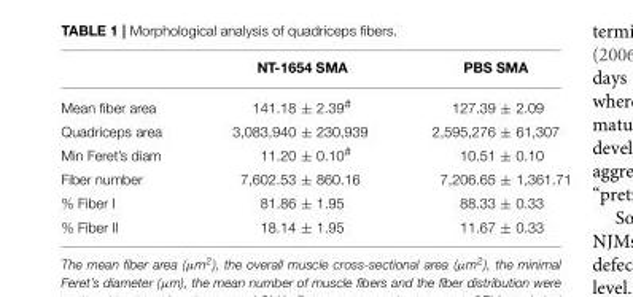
<table><thead><tr><td></td><td>NT-1654 SMA</td><td>PBS SMA</td></tr></thead><tbody><tr><td>Mean fiber area</td><td>141.18 ± 2.39<sup>#</sup></td><td>127.39 ± 2.09</td></tr><tr><td>Quadriceps area</td><td>3,083,940 ± 230,939</td><td>2,595,276 ± 61,307</td></tr><tr><td>Min Feret’s diam</td><td>11.20 ± 0.10<sup>#</sup></td><td>10.51 ± 0.10</td></tr><tr><td>Fiber number</td><td>7,602.53 ± 860.16</td><td>7,206.65 ± 1,361.71</td></tr><tr><td>% Fiber I</td><td>81.86 ± 1.95</td><td>88.33 ± 0.33</td></tr><tr><td>% Fiber II</td><td>18.14 ± 1.95</td><td>11.67 ± 0.33</td></tr></tbody></table>